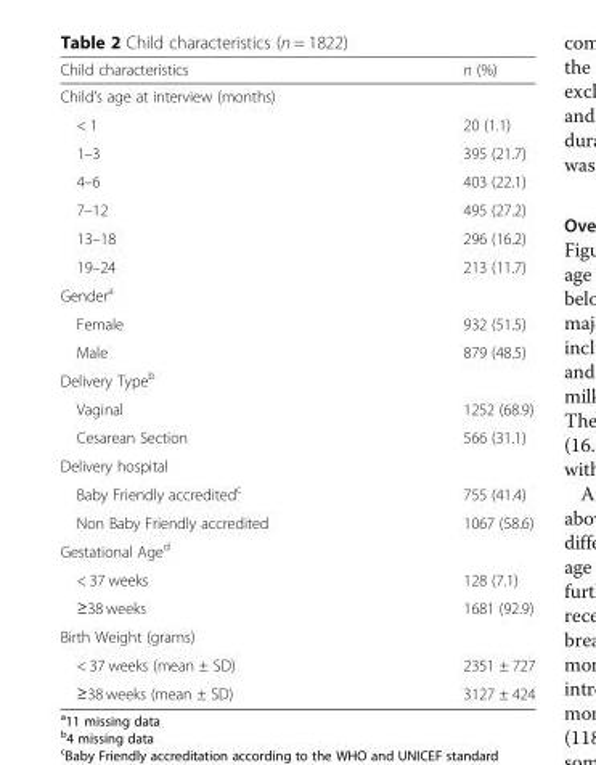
<table><thead><tr><td>Child characteristics</td><td>n (%)</td></tr></thead><tbody><tr><td colspan="2">Child’s age at interview (months)</td></tr><tr><td>&lt; 1</td><td>20 (1.1)</td></tr><tr><td>1–3</td><td>395 (21.7)</td></tr><tr><td>4–6</td><td>403 (22.1)</td></tr><tr><td>7–12</td><td>495 (27.2)</td></tr><tr><td>13–18</td><td>296 (16.2)</td></tr><tr><td>19–24</td><td>213 (11.7)</td></tr><tr><td colspan="2">Gender<sup>a</sup></td></tr><tr><td>Female</td><td>932 (51.5)</td></tr><tr><td>Male</td><td>879 (48.5)</td></tr><tr><td colspan="2">Delivery Type<sup>b</sup></td></tr><tr><td>Vaginal</td><td>1252 (68.9)</td></tr><tr><td>Cesarean Section</td><td>566 (31.1)</td></tr><tr><td colspan="2">Delivery hospital</td></tr><tr><td>Baby Friendly accredited<sup>c</sup></td><td>755 (41.4)</td></tr><tr><td>Non Baby Friendly accredited</td><td>1067 (58.6)</td></tr><tr><td colspan="2">Gestational Age<sup>d</sup></td></tr><tr><td>&lt; 37 weeks</td><td>128 (7.1)</td></tr><tr><td>≥38 weeks</td><td>1681 (92.9)</td></tr><tr><td colspan="2">Birth Weight (grams)</td></tr><tr><td>&lt; 37 weeks (mean ± SD)</td><td>2351 ± 727</td></tr><tr><td>≥38 weeks (mean ± SD)</td><td>3127 ± 424</td></tr></tbody></table>